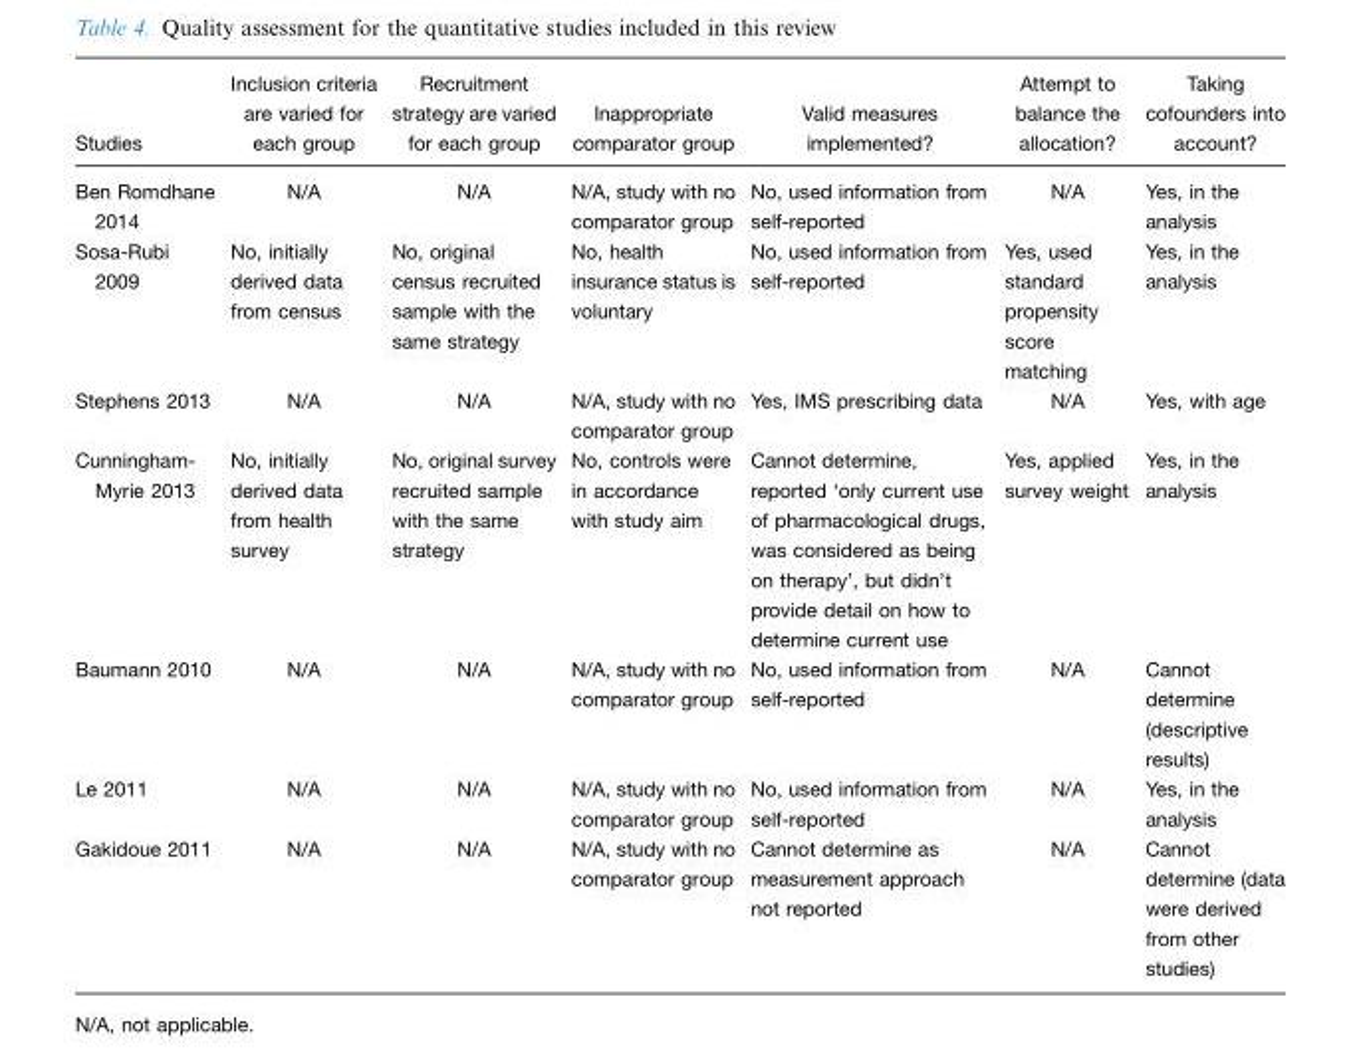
<table><thead><tr><td>Studies</td><td>Inclusion criteria are varied for each group</td><td>Recruitment strategy are varied for each group</td><td>Inappropriate comparator group</td><td>Valid measures implemented?</td><td>Attempt to balance the allocation?</td><td>Taking cofounders into account?</td></tr></thead><tbody><tr><td>Ben Romdhane 2014</td><td>N/A</td><td>N/A</td><td>N/A, study with no comparator group</td><td>No, used information from self-reported</td><td>N/A</td><td>Yes, in the analysis</td></tr><tr><td>Sosa-Rubi 2009</td><td>No, initially derived data from census</td><td>No, original census recruited sample with the same strategy</td><td>No, health insurance status is voluntary</td><td>No, used information from self-reported</td><td>Yes, used standard propensity score matching</td><td>Yes, in the analysis</td></tr><tr><td>Stephens 2013</td><td>N/A</td><td>N/A</td><td>N/A, study with no comparator group</td><td>Yes, IMS prescribing data</td><td>N/A</td><td>Yes, with age</td></tr><tr><td>Cunningham- Myrie 2013</td><td>No, initially derived data from health survey</td><td>No, original survey recruited sample with the same strategy</td><td>No, controls were in accordance with study aim</td><td>Cannot determine, reported ‘only current use of pharmacological drugs, was considered as being on therapy’, but didn’t provide detail on how to determine current use</td><td>Yes, applied survey weight</td><td>Yes, in the analysis</td></tr><tr><td>Baumann 2010</td><td>N/A</td><td>N/A</td><td>N/A, study with no comparator group</td><td>No, used information from self-reported</td><td>N/A</td><td>Cannot determine (descriptive results)</td></tr><tr><td>Le 2011</td><td>N/A</td><td>N/A</td><td>N/A, study with no comparator group</td><td>No, used information from self-reported</td><td>N/A</td><td>Yes, in the analysis</td></tr><tr><td>Gakidoue 2011</td><td>N/A</td><td>N/A</td><td>N/A, study with no comparator group</td><td>Cannot determine as measurement approach not reported</td><td>N/A</td><td>Cannot determine (data were derived from other studies)</td></tr></tbody></table>